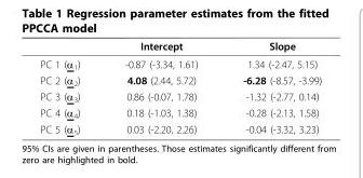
<table><thead><tr><td></td><td>Intercept</td><td>Slope</td></tr></thead><tbody><tr><td>PC 1 (α<sub>1</sub>)</td><td>-0.87 (-3.34, 1.61)</td><td>1.34 (-2.47, 5.15)</td></tr><tr><td>PC 2 (α<sub>2</sub>)</td><td>4.08 (2.44, 5.72)</td><td>-6.28 (-8.57, -3.99)</td></tr><tr><td>PC 3 (α<sub>3</sub>)</td><td>0.86 (-0.07, 1.78)</td><td>-1.32 (-2.77, 0.14)</td></tr><tr><td>PC 4 (α<sub>4</sub>)</td><td>0.18 (-1.03, 1.38)</td><td>-0.28 (-2.13, 1.58)</td></tr><tr><td>PC 5 (α<sub>5</sub>)</td><td>0.03 (-2.20, 2.26)</td><td>-0.04 (-3.32, 3.23)</td></tr></tbody></table>